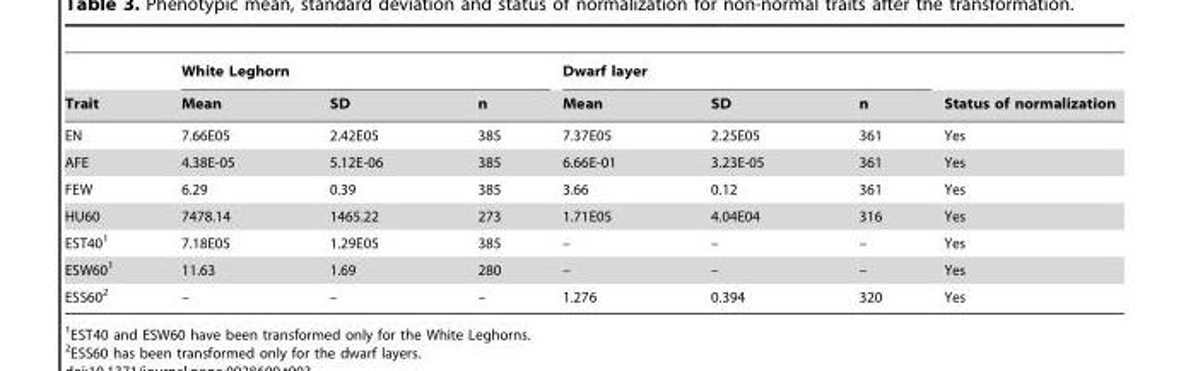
<table><thead><tr><td rowspan="2">Trait</td><td colspan="3">White Leghorn</td><td colspan="3">Dwarf layer</td><td rowspan="2">Status of normalization</td></tr><tr><td>Mean</td><td>SD</td><td>n</td><td>Mean</td><td>SD</td><td>n</td></tr></thead><tbody><tr><td>EN</td><td>7.66E05</td><td>2.42E05</td><td>385</td><td>7.37E05</td><td>2.25E05</td><td>361</td><td>Yes</td></tr><tr><td>AFE</td><td>4.38E-05</td><td>5.12E-06</td><td>385</td><td>6.66E-01</td><td>3.23E-05</td><td>361</td><td>Yes</td></tr><tr><td>FEW</td><td>6.29</td><td>0.39</td><td>385</td><td>3.66</td><td>0.12</td><td>361</td><td>Yes</td></tr><tr><td>HU60</td><td>7478.14</td><td>1465.22</td><td>273</td><td>1.71E05</td><td>4.04E04</td><td>316</td><td>Yes</td></tr><tr><td>EST40<sup>1</sup></td><td>7.18E05</td><td>1.29E05</td><td>385</td><td>–</td><td>–</td><td>–</td><td>Yes</td></tr><tr><td>ESW60<sup>1</sup></td><td>11.63</td><td>1.69</td><td>280</td><td>–</td><td>–</td><td>–</td><td>Yes</td></tr><tr><td>ESS60<sup>2</sup></td><td>–</td><td>–</td><td>–</td><td>1.276</td><td>0.394</td><td>320</td><td>Yes</td></tr></tbody></table>